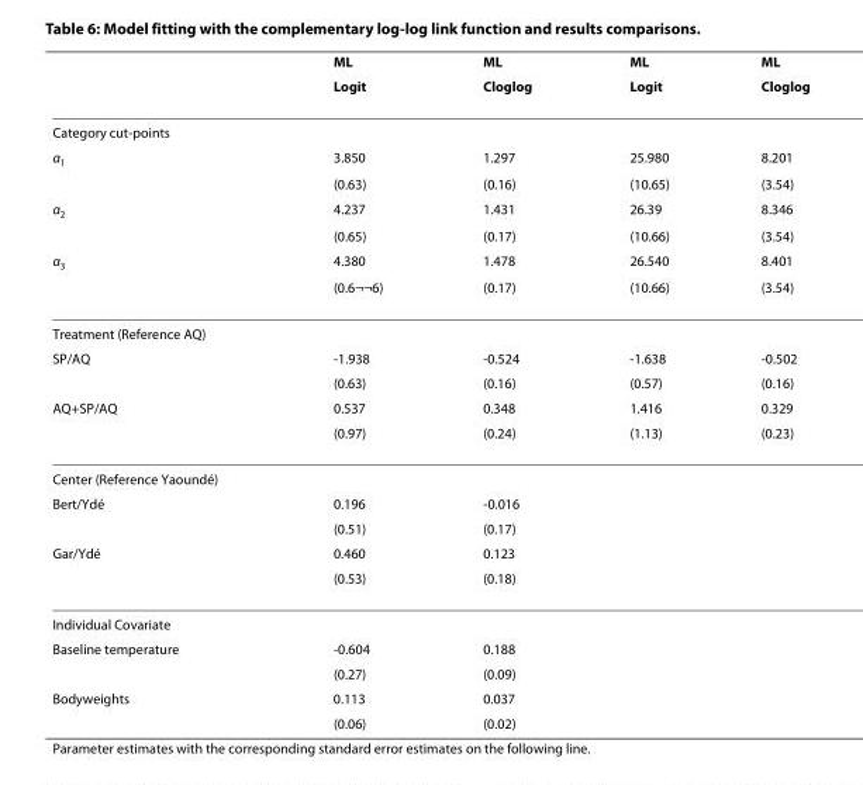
<table><thead><tr><td rowspan="2"></td><td rowspan="2">ML Logit</td><td rowspan="2">ML Cloglog</td><td rowspan="2">ML Logit</td><td rowspan="2">ML Cloglog</td></tr><tr></tr></thead><tbody><tr><td colspan="5">Category cut-points</td></tr><tr><td rowspan="2">α<sub>1</sub></td><td>3.850</td><td>1.297</td><td>25.980</td><td>8.201</td></tr><tr><td>(0.63)</td><td>(0.16)</td><td>(10.65)</td><td>(3.54)</td></tr><tr><td rowspan="2">α<sub>2</sub></td><td>4.237</td><td>1.431</td><td>26.39</td><td>8.346</td></tr><tr><td>(0.65)</td><td>(0.17)</td><td>(10.66)</td><td>(3.54)</td></tr><tr><td rowspan="2">α<sub>3</sub></td><td>4.380</td><td>1.478</td><td>26.540</td><td>8.401</td></tr><tr><td>(0.6¬¬6)</td><td>(0.17)</td><td>(10.66)</td><td>(3.54)</td></tr><tr><td colspan="5">Treatment (Reference AQ)</td></tr><tr><td rowspan="2">SP/AQ</td><td>-1.938</td><td>-0.524</td><td>-1.638</td><td>-0.502</td></tr><tr><td>(0.63)</td><td>(0.16)</td><td>(0.57)</td><td>(0.16)</td></tr><tr><td rowspan="2">AQ+SP/AQ</td><td>0.537</td><td>0.348</td><td>1.416</td><td>0.329</td></tr><tr><td>(0.97)</td><td>(0.24)</td><td>(1.13)</td><td>(0.23)</td></tr><tr><td colspan="5">Center (Reference Yaoundé)</td></tr><tr><td rowspan="2">Bert/Ydé</td><td>0.196</td><td>-0.016</td><td></td><td></td></tr><tr><td>(0.51)</td><td>(0.17)</td><td></td><td></td></tr><tr><td rowspan="2">Gar/Ydé</td><td>0.460</td><td>0.123</td><td></td><td></td></tr><tr><td>(0.53)</td><td>(0.18)</td><td></td><td></td></tr><tr><td colspan="5">Individual Covariate</td></tr><tr><td rowspan="2">Baseline temperature</td><td>-0.604</td><td>0.188</td><td></td><td></td></tr><tr><td>(0.27)</td><td>(0.09)</td><td></td><td></td></tr><tr><td rowspan="2">Bodyweights</td><td>0.113</td><td>0.037</td><td></td><td></td></tr><tr><td>(0.06)</td><td>(0.02)</td><td></td><td></td></tr></tbody></table>